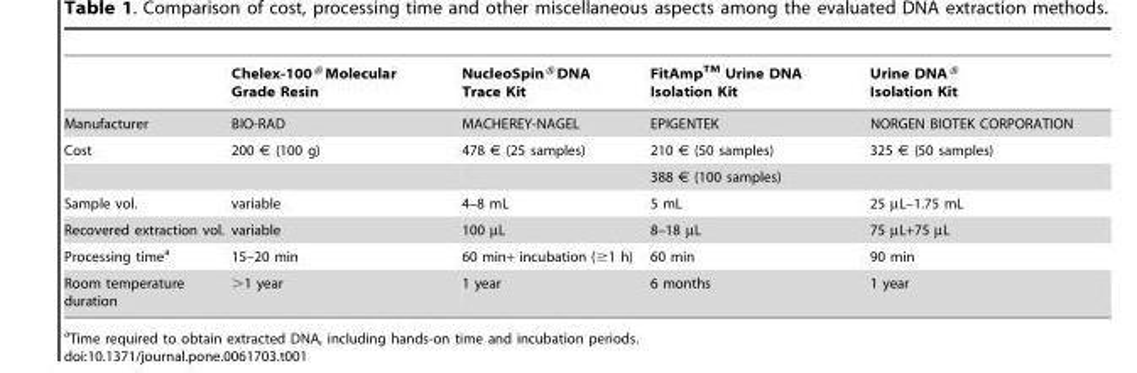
<table><thead><tr><td></td><td>Chelex-100® Molecular Grade Resin</td><td>NucleoSpin® DNA Trace Kit</td><td>FitAmpTM Urine DNA Isolation Kit</td><td>Urine DNA® Isolation Kit</td></tr></thead><tbody><tr><td>Manufacturer</td><td>BIO-RAD</td><td>MACHEREY-NAGEL</td><td>EPIGENTEK</td><td>NORGEN BIOTEK CORPORATION</td></tr><tr><td rowspan="2">Cost</td><td>200 € (100 g)</td><td>478 € (25 samples)</td><td>210 € (50 samples)</td><td>325 € (50 samples)</td></tr><tr><td></td><td></td><td>388 € (100 samples)</td><td></td></tr><tr><td>Sample vol.</td><td>variable</td><td>4–8 mL</td><td>5 mL</td><td>25 µL–1.75 mL</td></tr><tr><td>Recovered extraction vol.</td><td>variable</td><td>100 µL</td><td>8–18 µL</td><td>75 µL+75 µL</td></tr><tr><td>Processing time<sup>a</sup></td><td>15–20 min</td><td>60 min+ incubation (≥1 h)</td><td>60 min</td><td>90 min</td></tr><tr><td>Room temperature duration</td><td>&gt;1 year</td><td>1 year</td><td>6 months</td><td>1 year</td></tr></tbody></table>